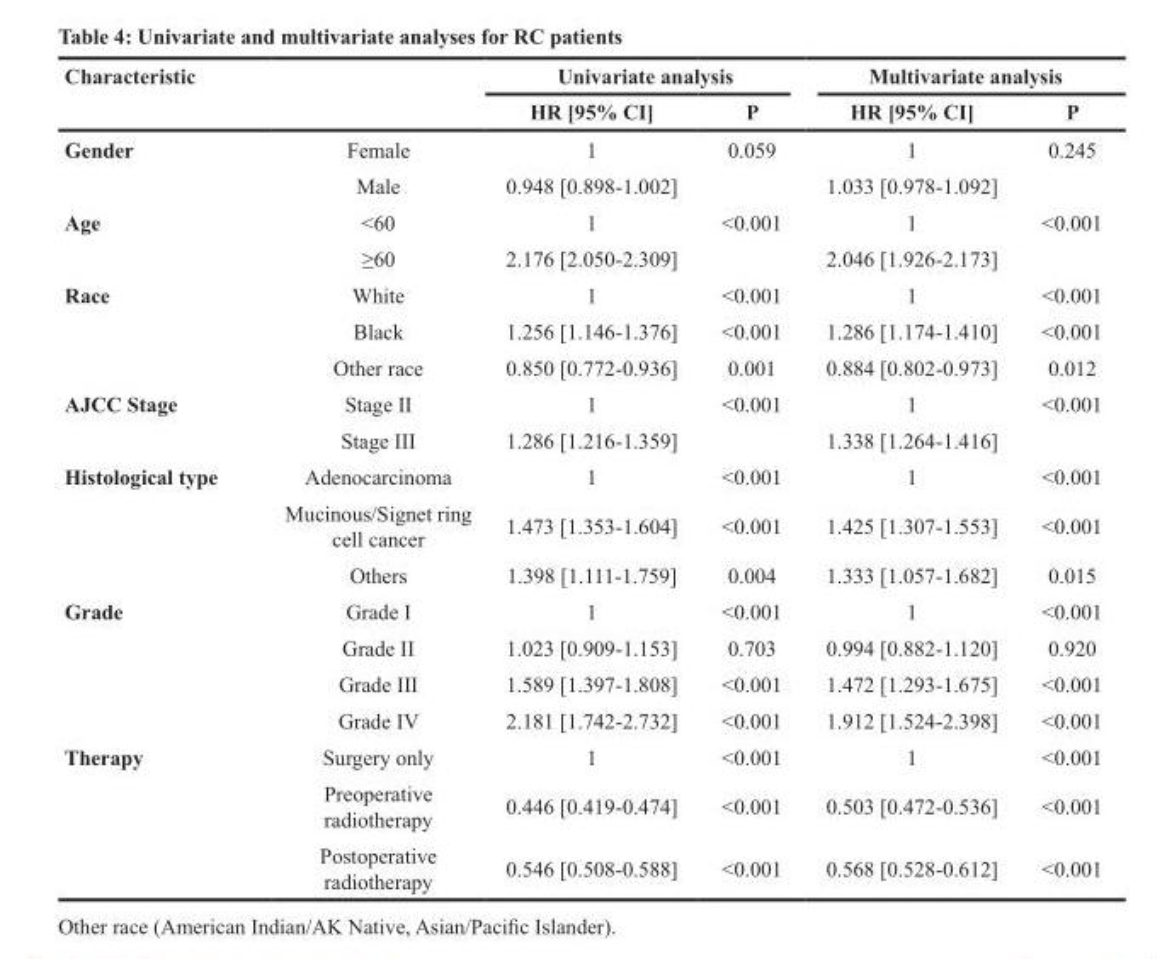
<table><thead><tr><td rowspan="2" colspan="2">Characteristic</td><td colspan="2">Univariate analysis</td><td colspan="2">Multivariate analysis</td></tr><tr><td rowspan="2">HR [95% CI] 1</td><td rowspan="2">P 0.059</td><td rowspan="2">HR [95% CI] 1</td><td rowspan="2">P 0.245</td></tr><tr><td>Gender</td><td>Female</td></tr></thead><tbody><tr><td></td><td>Male</td><td>0.948 [0.898-1.002]</td><td></td><td>1.033 [0.978-1.092]</td><td></td></tr><tr><td rowspan="2">Age</td><td>&lt;60</td><td>1</td><td>&lt;0.001</td><td>1</td><td>&lt;0.001</td></tr><tr><td>≥60</td><td>2.176 [2.050-2.309]</td><td></td><td>2.046 [1.926-2.173]</td><td></td></tr><tr><td rowspan="3">Race</td><td>White</td><td>1</td><td>&lt;0.001</td><td>1</td><td>&lt;0.001</td></tr><tr><td>Black</td><td>1.256 [1.146-1.376]</td><td>&lt;0.001</td><td>1.286 [1.174-1.410]</td><td>&lt;0.001</td></tr><tr><td>Other race</td><td>0.850 [0.772-0.936]</td><td>0.001</td><td>0.884 [0.802-0.973]</td><td>0.012</td></tr><tr><td rowspan="2">AJCC Stage</td><td>Stage II</td><td>1</td><td>&lt;0.001</td><td>1</td><td>&lt;0.001</td></tr><tr><td>Stage III</td><td>1.286 [1.216-1.359]</td><td></td><td>1.338 [1.264-1.416]</td><td></td></tr><tr><td rowspan="3">Histological type</td><td>Adenocarcinoma</td><td>1</td><td>&lt;0.001</td><td>1</td><td>&lt;0.001</td></tr><tr><td>Mucinous/Signet ring cell cancer</td><td>1.473 [1.353-1.604]</td><td>&lt;0.001</td><td>1.425 [1.307-1.553]</td><td>&lt;0.001</td></tr><tr><td>Others</td><td>1.398 [1.111-1.759]</td><td>0.004</td><td>1.333 [1.057-1.682]</td><td>0.015</td></tr><tr><td rowspan="4">Grade</td><td>Grade I</td><td>1</td><td>&lt;0.001</td><td>1</td><td>&lt;0.001</td></tr><tr><td>Grade II</td><td>1.023 [0.909-1.153]</td><td>0.703</td><td>0.994 [0.882-1.120]</td><td>0.920</td></tr><tr><td>Grade III</td><td>1.589 [1.397-1.808]</td><td>&lt;0.001</td><td>1.472 [1.293-1.675]</td><td>&lt;0.001</td></tr><tr><td>Grade IV</td><td>2.181 [1.742-2.732]</td><td>&lt;0.001</td><td>1.912 [1.524-2.398]</td><td>&lt;0.001</td></tr><tr><td rowspan="3">Therapy</td><td>Surgery only</td><td>1</td><td>&lt;0.001</td><td>1</td><td>&lt;0.001</td></tr><tr><td>Preoperative radiotherapy</td><td>0.446 [0.419-0.474]</td><td>&lt;0.001</td><td>0.503 [0.472-0.536]</td><td>&lt;0.001</td></tr><tr><td>Postoperative radiotherapy</td><td>0.546 [0.508-0.588]</td><td>&lt;0.001</td><td>0.568 [0.528-0.612]</td><td>&lt;0.001</td></tr></tbody></table>